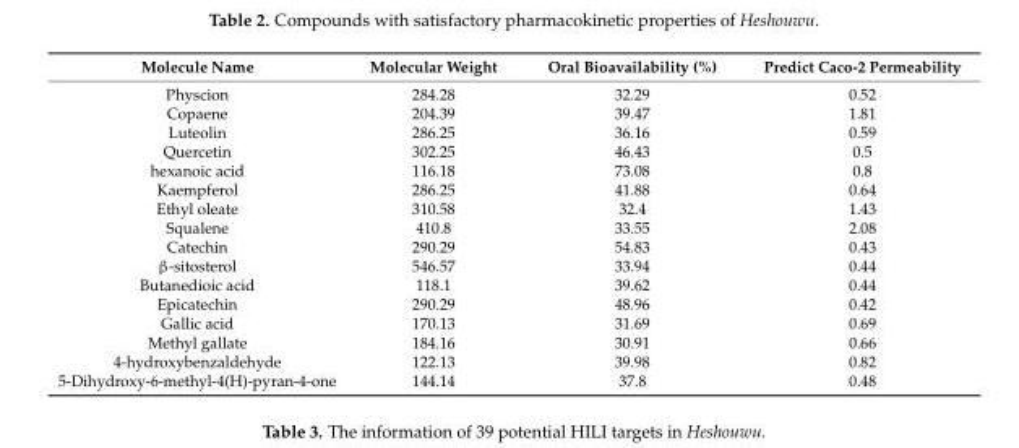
<table><thead><tr><td>Molecule Name</td><td>Molecular Weight</td><td>Oral Bioavailability (%)</td><td>Predict Caco-2 Permeability</td></tr></thead><tbody><tr><td>Physcion</td><td>284.28</td><td>32.29</td><td>0.52</td></tr><tr><td>Copaene</td><td>204.39</td><td>39.47</td><td>1.81</td></tr><tr><td>Luteolin</td><td>286.25</td><td>36.16</td><td>0.59</td></tr><tr><td>Quercetin</td><td>302.25</td><td>46.43</td><td>0.5</td></tr><tr><td>hexanoic acid</td><td>116.18</td><td>73.08</td><td>0.8</td></tr><tr><td>Kaempferol</td><td>286.25</td><td>41.88</td><td>0.64</td></tr><tr><td>Ethyl oleate</td><td>310.58</td><td>32.4</td><td>1.43</td></tr><tr><td>Squalene</td><td>410.8</td><td>33.55</td><td>2.08</td></tr><tr><td>Catechin</td><td>290.29</td><td>54.83</td><td>0.43</td></tr><tr><td>β-sitosterol</td><td>546.57</td><td>33.94</td><td>0.44</td></tr><tr><td>Butanedioic acid</td><td>118.1</td><td>39.62</td><td>0.44</td></tr><tr><td>Epicatechin</td><td>290.29</td><td>48.96</td><td>0.42</td></tr><tr><td>Gallic acid</td><td>170.13</td><td>31.69</td><td>0.69</td></tr><tr><td>Methyl gallate</td><td>184.16</td><td>30.91</td><td>0.66</td></tr><tr><td>4-hydroxybenzaldehyde</td><td>122.13</td><td>39.98</td><td>0.82</td></tr><tr><td>5-Dihydroxy-6-methyl-4(H)-pyran-4-one</td><td>144.14</td><td>37.8</td><td>0.48</td></tr></tbody></table>